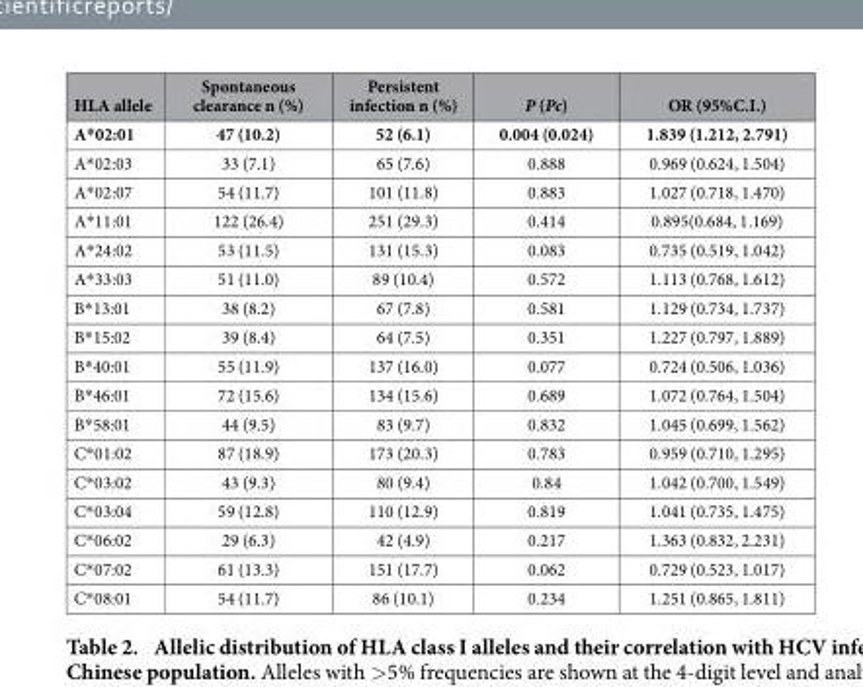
<table><thead><tr><td>HLA allele</td><td>Spontaneous clearance n (%)</td><td>Persistent infection n (%)</td><td>P (Pc)</td><td>OR (95%C.I.)</td></tr></thead><tbody><tr><td>A*02:01</td><td>47 (10.2)</td><td>52 (6.1)</td><td>0.004 (0.024)</td><td>1.839 (1.212, 2.791)</td></tr><tr><td>A* 02:03</td><td>33 (7.1)</td><td>65 (7.6)</td><td>0.888</td><td>0.969 (0.624, 1.504)</td></tr><tr><td>A* 02:07</td><td>54 (11.7)</td><td>101 (11.8)</td><td>0.883</td><td>1.027 (0.718, 1.470)</td></tr><tr><td>A* 11:01</td><td>122 (26.4)</td><td>251 (29.3)</td><td>0.414</td><td>0.895(0.684, 1.169)</td></tr><tr><td>A* 24:02</td><td>53 (11.5)</td><td>131 (15.3)</td><td>0.083</td><td>0.735 (0.519, 1.042)</td></tr><tr><td>A* 33:03</td><td>51 (11.0)</td><td>89 (10.4)</td><td>0.572</td><td>1.113 (0.768, 1.612)</td></tr><tr><td>B* 13:01</td><td>38 (8.2)</td><td>67 (7.8)</td><td>0.581</td><td>1.129 (0.734, 1.737)</td></tr><tr><td>B* 15:02</td><td>39 (8.4)</td><td>64 (7.5)</td><td>0.351</td><td>1.227 (0.797, 1.889)</td></tr><tr><td>B* 40:01</td><td>55 (11.9)</td><td>137 (16.0)</td><td>0.077</td><td>0.724 (0.506, 1.036)</td></tr><tr><td>B* 46:01</td><td>72 (15.6)</td><td>134 (15.6)</td><td>0.689</td><td>1.072 (0.764, 1.504)</td></tr><tr><td>B* 58:01</td><td>44 (9.5)</td><td>83 (9.7)</td><td>0.832</td><td>1.045 (0.699, 1.562)</td></tr><tr><td>C* 01:02</td><td>87 (18.9)</td><td>173 (20.3)</td><td>0.783</td><td>0.959 (0.710, 1.295)</td></tr><tr><td>C* 03:02</td><td>43 (9.3)</td><td>80 (9.4)</td><td>0.84</td><td>1.042 (0.700, 1.549)</td></tr><tr><td>C* 03:04</td><td>59 (12.8)</td><td>110 (12.9)</td><td>0.819</td><td>1.041 (0.735, 1.475)</td></tr><tr><td>C* 06:02</td><td>29 (6.3)</td><td>42 (4.9)</td><td>0.217</td><td>1.363 (0.832, 2.231)</td></tr><tr><td>C* 07:02</td><td>61 (13.3)</td><td>151 (17.7)</td><td>0.062</td><td>0.729 (0.523, 1.017)</td></tr><tr><td>C* 08:01</td><td>54 (11.7)</td><td>86 (10.1)</td><td>0.234</td><td>1.251 (0.865, 1.811)</td></tr></tbody></table>